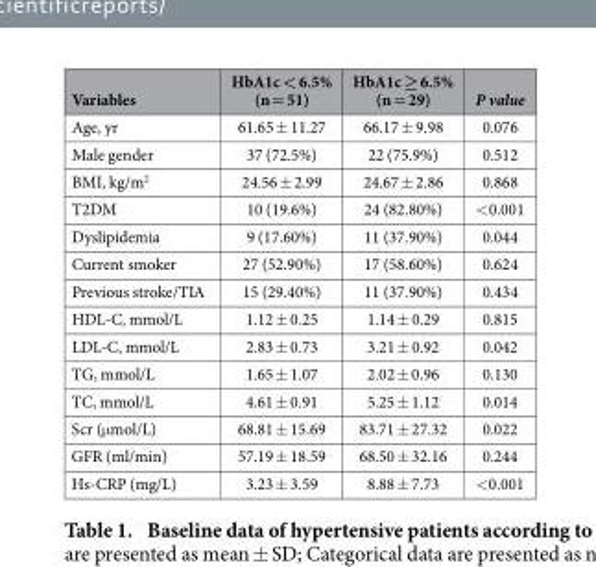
<table><thead><tr><td>Variables</td><td>HbA1c &lt; 6.5% (n = 51)</td><td>HbA1c ≥ 6.5% (n = 29)</td><td>P value</td></tr></thead><tbody><tr><td>Age, yr</td><td>61.65 ± 11.27</td><td>66.17 ± 9.98</td><td>0.076</td></tr><tr><td>Male gender</td><td>37 (72.5%)</td><td>22 (75.9%)</td><td>0.512</td></tr><tr><td>BMI, kg/m<sup>2</sup></td><td>24.56 ± 2.99</td><td>24.67 ± 2.86</td><td>0.868</td></tr><tr><td>T2DM</td><td>10 (19.6%)</td><td>24 (82.80%)</td><td>&lt; 0.001</td></tr><tr><td>Dyslipidemia</td><td>9 (17.60%)</td><td>11 (37.90%)</td><td>0.044</td></tr><tr><td>Current smoker</td><td>27 (52.90%)</td><td>17 (58.60%)</td><td>0.624</td></tr><tr><td>Previous stroke/TIA</td><td>15 (29.40%)</td><td>11 (37.90%)</td><td>0.434</td></tr><tr><td>HDL-C, mmol/L</td><td>1.12 ± 0.25</td><td>1.14 ± 0.29</td><td>0.815</td></tr><tr><td>LDL-C, mmol/L</td><td>2.83 ± 0.73</td><td>3.21 ± 0.92</td><td>0.042</td></tr><tr><td>TG, mmol/L</td><td>1.65 ± 1.07</td><td>2.02 ± 0.96</td><td>0.130</td></tr><tr><td>TC, mmol/L</td><td>4.61 ± 0.91</td><td>5.25 ± 1.12</td><td>0.014</td></tr><tr><td>Scr (μ mol/L)</td><td>68.81 ± 15.69</td><td>83.71 ± 27.32</td><td>0.022</td></tr><tr><td>GFR (ml/min)</td><td>57.19 ± 18.59</td><td>68.50 ± 32.16</td><td>0.244</td></tr><tr><td>Hs-CRP (mg/L)</td><td>3.23 ± 3.59</td><td>8.88 ± 7.73</td><td>&lt; 0.001</td></tr></tbody></table>